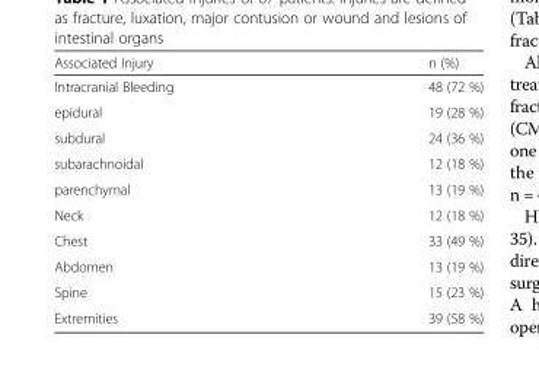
<table><thead><tr><td>Associated Injury</td><td>n (%)</td></tr></thead><tbody><tr><td>Intracranial Bleeding</td><td>48 (72 %)</td></tr><tr><td>epidural</td><td>19 (28 %)</td></tr><tr><td>subdural</td><td>24 (36 %)</td></tr><tr><td>subarachnoidal</td><td>12 (18 %)</td></tr><tr><td>parenchymal</td><td>13 (19 %)</td></tr><tr><td>Neck</td><td>12 (18 %)</td></tr><tr><td>Chest</td><td>33 (49 %)</td></tr><tr><td>Abdomen</td><td>13 (19 %)</td></tr><tr><td>Spine</td><td>15 (23 %)</td></tr><tr><td>Extremities</td><td>39 (58 %)</td></tr></tbody></table>